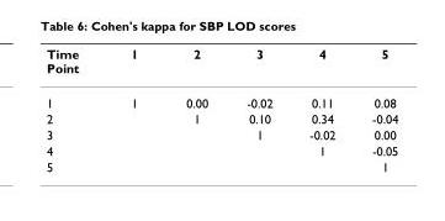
<table><thead><tr><td>Time Point</td><td>1</td><td>2</td><td>3</td><td>4</td><td>5</td></tr></thead><tbody><tr><td>1</td><td>1</td><td>0.00</td><td>-0.02</td><td>0.11</td><td>0.08</td></tr><tr><td>2</td><td></td><td>1</td><td>0.10</td><td>0.34</td><td>-0.04</td></tr><tr><td>3</td><td></td><td></td><td>1</td><td>-0.02</td><td>0.00</td></tr><tr><td>4</td><td></td><td></td><td></td><td>1</td><td>-0.05</td></tr><tr><td>5</td><td></td><td></td><td></td><td></td><td>1</td></tr></tbody></table>